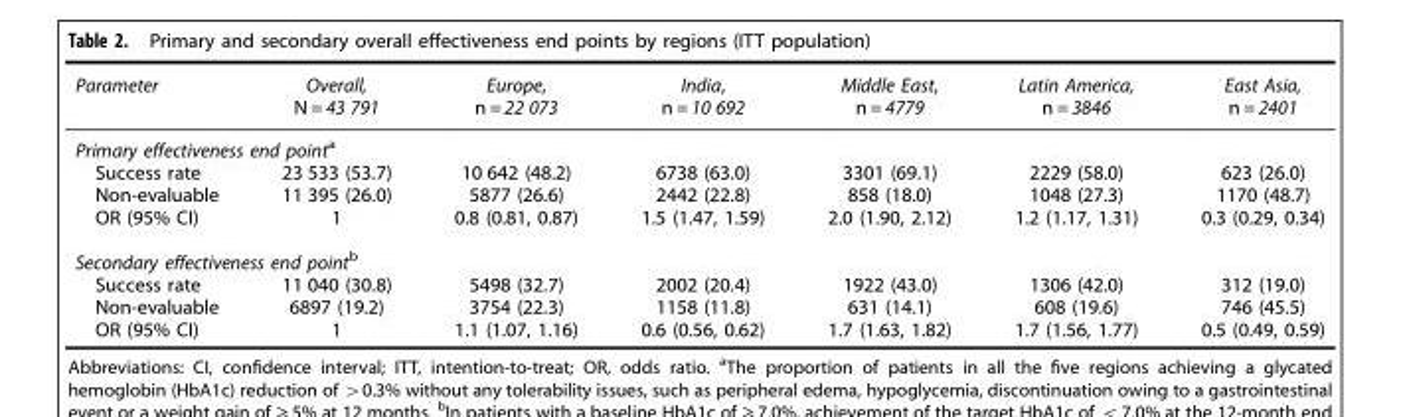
<table><thead><tr><td>Parameter</td><td>Overall, N = 43 791</td><td>Europe, n = 22 073</td><td>India, n = 10 692</td><td>Middle East, n = 4779</td><td>Latin America, n = 3846</td><td>East Asia, n = 2401</td></tr></thead><tbody><tr><td colspan="7">Primary effectiveness end point<sup>a</sup></td></tr><tr><td>Success rate</td><td>23 533 (53.7)</td><td>10 642 (48.2)</td><td>6738 (63.0)</td><td>3301 (69.1)</td><td>2229 (58.0)</td><td>623 (26.0)</td></tr><tr><td>Non-evaluable</td><td>11 395 (26.0)</td><td>5877 (26.6)</td><td>2442 (22.8)</td><td>858 (18.0)</td><td>1048 (27.3)</td><td>1170 (48.7)</td></tr><tr><td>OR (95% CI)</td><td>1</td><td>0.8 (0.81, 0.87)</td><td>1.5 (1.47, 1.59)</td><td>2.0 (1.90, 2.12)</td><td>1.2 (1.17, 1.31)</td><td>0.3 (0.29, 0.34)</td></tr><tr><td colspan="7">Secondary effectiveness end point<sup>b</sup></td></tr><tr><td>Success rate</td><td>11 040 (30.8)</td><td>5498 (32.7)</td><td>2002 (20.4)</td><td>1922 (43.0)</td><td>1306 (42.0)</td><td>312 (19.0)</td></tr><tr><td>Non-evaluable</td><td>6897 (19.2)</td><td>3754 (22.3)</td><td>1158 (11.8)</td><td>631 (14.1)</td><td>608 (19.6)</td><td>746 (45.5)</td></tr><tr><td>OR (95% CI)</td><td>1</td><td>1.1 (1.07, 1.16)</td><td>0.6 (0.56, 0.62)</td><td>1.7 (1.63, 1.82)</td><td>1.7 (1.56, 1.77)</td><td>0.5 (0.49, 0.59)</td></tr></tbody></table>